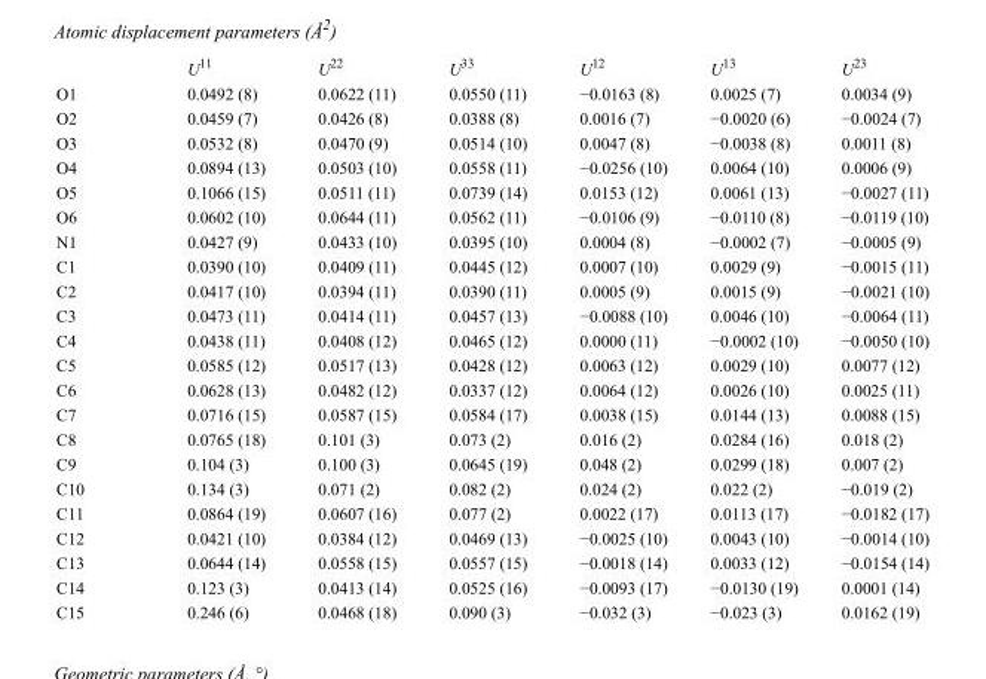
<table><thead><tr><td></td><td>U<sup>11</sup></td><td>U<sup>22</sup></td><td>U<sup>33</sup></td><td>U<sup>12</sup></td><td>U<sup>13</sup></td><td>U<sup>23</sup></td></tr></thead><tbody><tr><td>O1</td><td>0.0492 (8)</td><td>0.0622 (11)</td><td>0.0550 (11)</td><td>−0.0163 (8)</td><td>0.0025 (7)</td><td>0.0034 (9)</td></tr><tr><td>O2</td><td>0.0459 (7)</td><td>0.0426 (8)</td><td>0.0388 (8)</td><td>0.0016 (7)</td><td>−0.0020 (6)</td><td>−0.0024 (7)</td></tr><tr><td>O3</td><td>0.0532 (8)</td><td>0.0470 (9)</td><td>0.0514 (10)</td><td>0.0047 (8)</td><td>−0.0038 (8)</td><td>0.0011 (8)</td></tr><tr><td>O4</td><td>0.0894 (13)</td><td>0.0503 (10)</td><td>0.0558 (11)</td><td>−0.0256 (10)</td><td>0.0064 (10)</td><td>0.0006 (9)</td></tr><tr><td>O5</td><td>0.1066 (15)</td><td>0.0511 (11)</td><td>0.0739 (14)</td><td>0.0153 (12)</td><td>0.0061 (13)</td><td>−0.0027 (11)</td></tr><tr><td>O6</td><td>0.0602 (10)</td><td>0.0644 (11)</td><td>0.0562 (11)</td><td>−0.0106 (9)</td><td>−0.0110 (8)</td><td>−0.0119 (10)</td></tr><tr><td>N1</td><td>0.0427 (9)</td><td>0.0433 (10)</td><td>0.0395 (10)</td><td>0.0004 (8)</td><td>−0.0002 (7)</td><td>−0.0005 (9)</td></tr><tr><td>C1</td><td>0.0390 (10)</td><td>0.0409 (11)</td><td>0.0445 (12)</td><td>0.0007 (10)</td><td>0.0029 (9)</td><td>−0.0015 (11)</td></tr><tr><td>C2</td><td>0.0417 (10)</td><td>0.0394 (11)</td><td>0.0390 (11)</td><td>0.0005 (9)</td><td>0.0015 (9)</td><td>−0.0021 (10)</td></tr><tr><td>C3</td><td>0.0473 (11)</td><td>0.0414 (11)</td><td>0.0457 (13)</td><td>−0.0088 (10)</td><td>0.0046 (10)</td><td>−0.0064 (11)</td></tr><tr><td>C4</td><td>0.0438 (11)</td><td>0.0408 (12)</td><td>0.0465 (12)</td><td>0.0000 (11)</td><td>−0.0002 (10)</td><td>−0.0050 (10)</td></tr><tr><td>C5</td><td>0.0585 (12)</td><td>0.0517 (13)</td><td>0.0428 (12)</td><td>0.0063 (12)</td><td>0.0029 (10)</td><td>0.0077 (12)</td></tr><tr><td>C6</td><td>0.0628 (13)</td><td>0.0482 (12)</td><td>0.0337 (12)</td><td>0.0064 (12)</td><td>0.0026 (10)</td><td>0.0025 (11)</td></tr><tr><td>C7</td><td>0.0716 (15)</td><td>0.0587 (15)</td><td>0.0584 (17)</td><td>0.0038 (15)</td><td>0.0144 (13)</td><td>0.0088 (15)</td></tr><tr><td>C8</td><td>0.0765 (18)</td><td>0.101 (3)</td><td>0.073 (2)</td><td>0.016 (2)</td><td>0.0284 (16)</td><td>0.018 (2)</td></tr><tr><td>C9</td><td>0.104 (3)</td><td>0.100 (3)</td><td>0.0645 (19)</td><td>0.048 (2)</td><td>0.0299 (18)</td><td>0.007 (2)</td></tr><tr><td>C10</td><td>0.134 (3)</td><td>0.071 (2)</td><td>0.082 (2)</td><td>0.024 (2)</td><td>0.022 (2)</td><td>−0.019 (2)</td></tr><tr><td>C11</td><td>0.0864 (19)</td><td>0.0607 (16)</td><td>0.077 (2)</td><td>0.0022 (17)</td><td>0.0113 (17)</td><td>−0.0182 (17)</td></tr><tr><td>C12</td><td>0.0421 (10)</td><td>0.0384 (12)</td><td>0.0469 (13)</td><td>−0.0025 (10)</td><td>0.0043 (10)</td><td>−0.0014 (10)</td></tr><tr><td>C13</td><td>0.0644 (14)</td><td>0.0558 (15)</td><td>0.0557 (15)</td><td>−0.0018 (14)</td><td>0.0033 (12)</td><td>−0.0154 (14)</td></tr><tr><td>C14</td><td>0.123 (3)</td><td>0.0413 (14)</td><td>0.0525 (16)</td><td>−0.0093 (17)</td><td>−0.0130 (19)</td><td>0.0001 (14)</td></tr><tr><td>C15</td><td>0.246 (6)</td><td>0.0468 (18)</td><td>0.090 (3)</td><td>−0.032 (3)</td><td>−0.023 (3)</td><td>0.0162 (19)</td></tr></tbody></table>